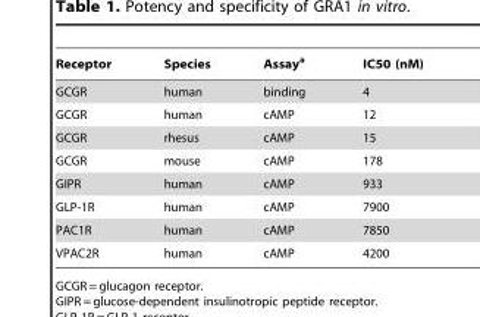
<table><thead><tr><td>Receptor</td><td>Species</td><td>Assay<sup>a</sup></td><td>IC50 (nM)</td></tr></thead><tbody><tr><td>GCGR</td><td>human</td><td>binding</td><td>4</td></tr><tr><td>GCGR</td><td>human</td><td>cAMP</td><td>12</td></tr><tr><td>GCGR</td><td>rhesus</td><td>cAMP</td><td>15</td></tr><tr><td>GCGR</td><td>mouse</td><td>cAMP</td><td>178</td></tr><tr><td>GIPR</td><td>human</td><td>cAMP</td><td>933</td></tr><tr><td>GLP-1R</td><td>human</td><td>cAMP</td><td>7900</td></tr><tr><td>PAC1R</td><td>human</td><td>cAMP</td><td>7850</td></tr><tr><td>VPAC2R</td><td>human</td><td>cAMP</td><td>4200</td></tr></tbody></table>